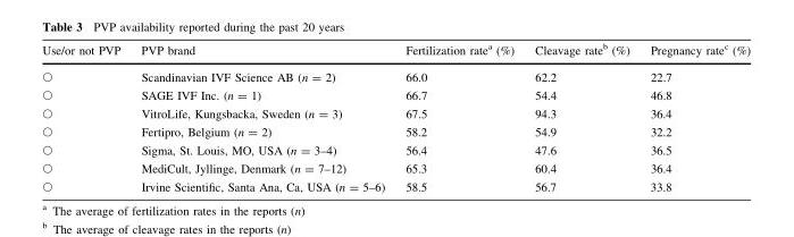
<table><thead><tr><td>Use/or not PVP</td><td>PVP brand</td><td>Fertilization rate<sup>a</sup> (%)</td><td>Cleavage rate<sup>b</sup> (%)</td><td>Pregnancy rate<sup>c</sup> (%)</td></tr></thead><tbody><tr><td>○</td><td>Scandinavian IVF Science AB (n = 2)</td><td>66.0</td><td>62.2</td><td>22.7</td></tr><tr><td>○</td><td>SAGE IVF Inc. (n = 1)</td><td>66.7</td><td>54.4</td><td>46.8</td></tr><tr><td>○</td><td>VitroLife, Kungsbacka, Sweden (n = 3)</td><td>67.5</td><td>94.3</td><td>36.4</td></tr><tr><td>○</td><td>Fertipro, Belgium (n = 2)</td><td>58.2</td><td>54.9</td><td>32.2</td></tr><tr><td>○</td><td>Sigma, St. Louis, MO, USA (n = 3–4)</td><td>56.4</td><td>47.6</td><td>36.5</td></tr><tr><td>○</td><td>MediCult, Jyllinge, Denmark (n = 7–12)</td><td>65.3</td><td>60.4</td><td>36.4</td></tr><tr><td>○</td><td>Irvine Scientific, Santa Ana, Ca, USA (n = 5–6)</td><td>58.5</td><td>56.7</td><td>33.8</td></tr></tbody></table>